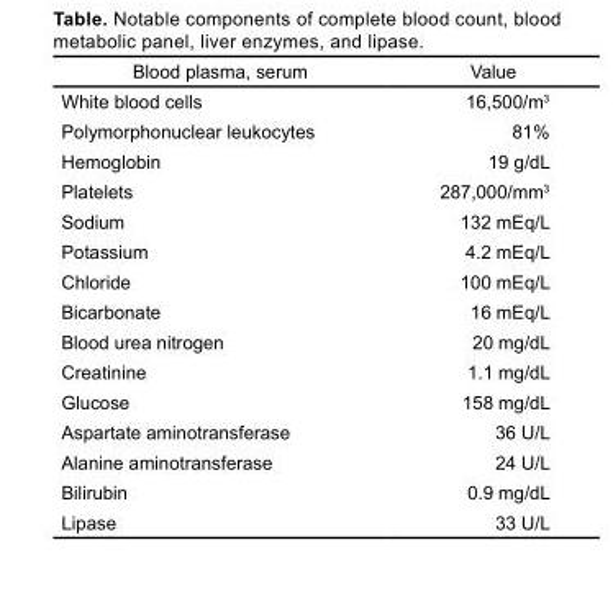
<table><thead><tr><td>Blood plasma, serum</td><td>Value</td></tr></thead><tbody><tr><td>White blood cells</td><td>16,500/m<sup>3</sup></td></tr><tr><td>Polymorphonuclear leukocytes</td><td>81%</td></tr><tr><td>Hemoglobin</td><td>19 g/dL</td></tr><tr><td>Platelets</td><td>287,000/mm<sup>3</sup></td></tr><tr><td>Sodium</td><td>132 mEq/L</td></tr><tr><td>Potassium</td><td>4.2 mEq/L</td></tr><tr><td>Chloride</td><td>100 mEq/L</td></tr><tr><td>Bicarbonate</td><td>16 mEq/L</td></tr><tr><td>Blood urea nitrogen</td><td>20 mg/dL</td></tr><tr><td>Creatinine</td><td>1.1 mg/dL</td></tr><tr><td>Glucose</td><td>158 mg/dL</td></tr><tr><td>Aspartate aminotransferase</td><td>36 U/L</td></tr><tr><td>Alanine aminotransferase</td><td>24 U/L</td></tr><tr><td>Bilirubin</td><td>0.9 mg/dL</td></tr><tr><td>Lipase</td><td>33 U/L</td></tr></tbody></table>